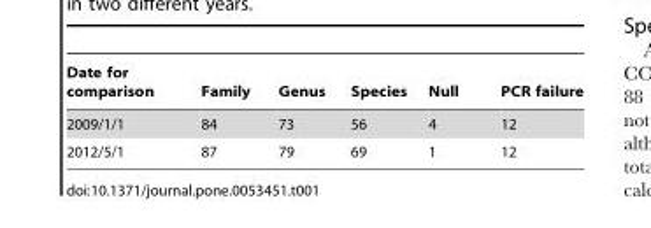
<table><thead><tr><td>Date for comparison</td><td>Family</td><td>Genus</td><td>Species</td><td>Null</td><td>PCR failure</td></tr></thead><tbody><tr><td>2009/1/1</td><td>84</td><td>73</td><td>56</td><td>4</td><td>12</td></tr><tr><td>2012/5/1</td><td>87</td><td>79</td><td>69</td><td>1</td><td>12</td></tr></tbody></table>